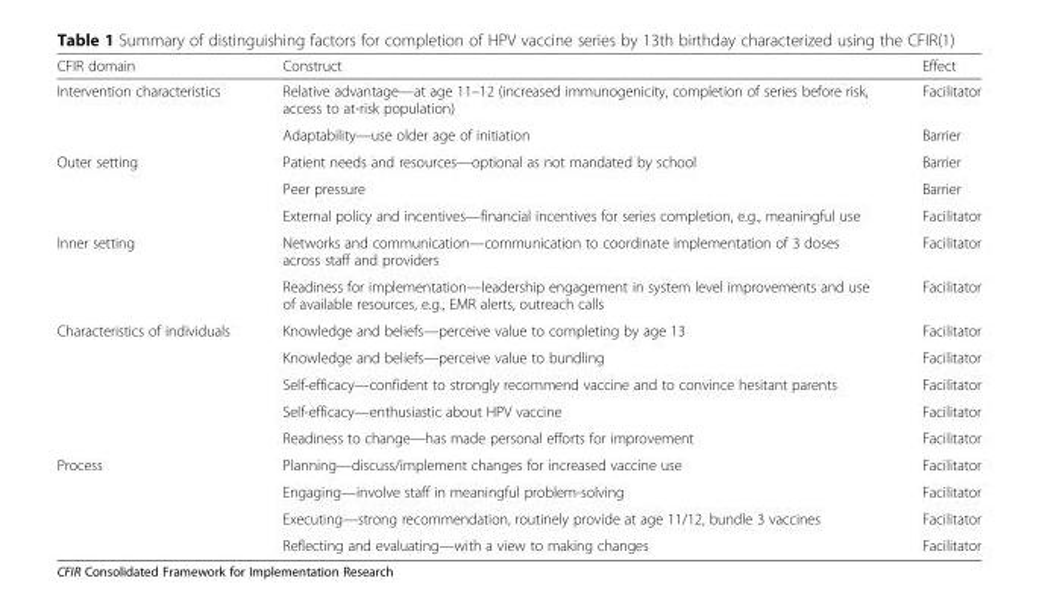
<table><thead><tr><td>CFIR domain</td><td>Construct</td><td>Effect</td></tr></thead><tbody><tr><td rowspan="2">Intervention characteristics</td><td>Relative advantage—at age 11–12 (increased immunogenicity, completion of series before risk, access to at-risk population)</td><td>Facilitator</td></tr><tr><td>Adaptability—use older age of initiation</td><td>Barrier</td></tr><tr><td rowspan="3">Outer setting</td><td>Patient needs and resources—optional as not mandated by school</td><td>Barrier</td></tr><tr><td>Peer pressure</td><td>Barrier</td></tr><tr><td>External policy and incentives—financial incentives for series completion, e.g., meaningful use</td><td>Facilitator</td></tr><tr><td rowspan="2">Inner setting</td><td>Networks and communication—communication to coordinate implementation of 3 doses across staff and providers</td><td>Facilitator</td></tr><tr><td>Readiness for implementation—leadership engagement in system level improvements and use of available resources, e.g., EMR alerts, outreach calls</td><td>Facilitator</td></tr><tr><td rowspan="5">Characteristics of individuals</td><td>Knowledge and beliefs—perceive value to completing by age 13</td><td>Facilitator</td></tr><tr><td>Knowledge and beliefs—perceive value to bundling</td><td>Facilitator</td></tr><tr><td>Self-efficacy—confident to strongly recommend vaccine and to convince hesitant parents</td><td>Facilitator</td></tr><tr><td>Self-efficacy—enthusiastic about HPV vaccine</td><td>Facilitator</td></tr><tr><td>Readiness to change—has made personal efforts for improvement</td><td>Facilitator</td></tr><tr><td rowspan="4">Process</td><td>Planning—discuss/implement changes for increased vaccine use</td><td>Facilitator</td></tr><tr><td>Engaging—involve staff in meaningful problem-solving</td><td>Facilitator</td></tr><tr><td>Executing—strong recommendation, routinely provide at age 11/12, bundle 3 vaccines</td><td>Facilitator</td></tr><tr><td>Reflecting and evaluating—with a view to making changes</td><td>Facilitator</td></tr></tbody></table>